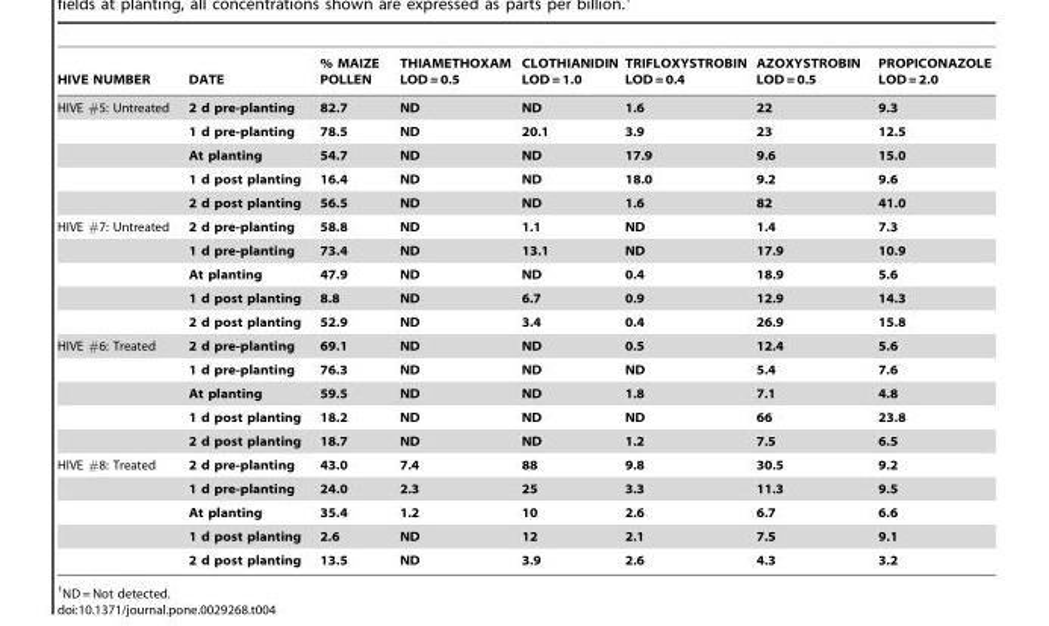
<table><thead><tr><td>HIVE NUMBER</td><td>DATE</td><td>% MAIZE POLLEN</td><td>THIAMETHOXAM LOD = 0.5</td><td>CLOTHIANIDIN LOD = 1.0</td><td>TRIFLOXYSTROBIN LOD = 0.4</td><td>AZOXYSTROBIN LOD = 0.5</td><td>PROPICONAZOLE LOD = 2.0</td></tr></thead><tbody><tr><td rowspan="5">HIVE #5: Untreated</td><td>2 d pre-planting</td><td>82.7</td><td>ND</td><td>ND</td><td>1.6</td><td>22</td><td>9.3</td></tr><tr><td>1 d pre-planting</td><td>78.5</td><td>ND</td><td>20.1</td><td>3.9</td><td>23</td><td>12.5</td></tr><tr><td>At planting</td><td>54.7</td><td>ND</td><td>ND</td><td>17.9</td><td>9.6</td><td>15.0</td></tr><tr><td>1 d post planting</td><td>16.4</td><td>ND</td><td>ND</td><td>18.0</td><td>9.2</td><td>9.6</td></tr><tr><td>2 d post planting</td><td>56.5</td><td>ND</td><td>ND</td><td>1.6</td><td>82</td><td>41.0</td></tr><tr><td rowspan="5">HIVE #7: Untreated</td><td>2 d pre-planting</td><td>58.8</td><td>ND</td><td>1.1</td><td>ND</td><td>1.4</td><td>7.3</td></tr><tr><td>1 d pre-planting</td><td>73.4</td><td>ND</td><td>13.1</td><td>ND</td><td>17.9</td><td>10.9</td></tr><tr><td>At planting</td><td>47.9</td><td>ND</td><td>ND</td><td>0.4</td><td>18.9</td><td>5.6</td></tr><tr><td>1 d post planting</td><td>8.8</td><td>ND</td><td>6.7</td><td>0.9</td><td>12.9</td><td>14.3</td></tr><tr><td>2 d post planting</td><td>52.9</td><td>ND</td><td>3.4</td><td>0.4</td><td>26.9</td><td>15.8</td></tr><tr><td rowspan="5">HIVE #6: Treated</td><td>2 d pre-planting</td><td>69.1</td><td>ND</td><td>ND</td><td>0.5</td><td>12.4</td><td>5.6</td></tr><tr><td>1 d pre-planting</td><td>76.3</td><td>ND</td><td>ND</td><td>ND</td><td>5.4</td><td>7.6</td></tr><tr><td>At planting</td><td>59.5</td><td>ND</td><td>ND</td><td>1.8</td><td>7.1</td><td>4.8</td></tr><tr><td>1 d post planting</td><td>18.2</td><td>ND</td><td>ND</td><td>ND</td><td>66</td><td>23.8</td></tr><tr><td>2 d post planting</td><td>18.7</td><td>ND</td><td>ND</td><td>1.2</td><td>7.5</td><td>6.5</td></tr><tr><td rowspan="5">HIVE #8: Treated</td><td>2 d pre-planting</td><td>43.0</td><td>7.4</td><td>88</td><td>9.8</td><td>30.5</td><td>9.2</td></tr><tr><td>1 d pre-planting</td><td>24.0</td><td>2.3</td><td>25</td><td>3.3</td><td>11.3</td><td>9.5</td></tr><tr><td>At planting</td><td>35.4</td><td>1.2</td><td>10</td><td>2.6</td><td>6.7</td><td>6.6</td></tr><tr><td>1 d post planting</td><td>2.6</td><td>ND</td><td>12</td><td>2.1</td><td>7.5</td><td>9.1</td></tr><tr><td>2 d post planting</td><td>13.5</td><td>ND</td><td>3.9</td><td>2.6</td><td>4.3</td><td>3.2</td></tr></tbody></table>